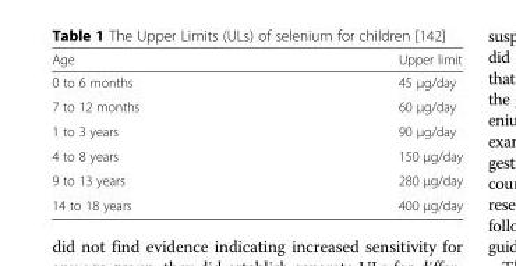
<table><thead><tr><td>Age</td><td>Upper limit</td></tr></thead><tbody><tr><td>0 to 6 months</td><td>45 μg/day</td></tr><tr><td>7 to 12 months</td><td>60 μg/day</td></tr><tr><td>1 to 3 years</td><td>90 μg/day</td></tr><tr><td>4 to 8 years</td><td>150 μg/day</td></tr><tr><td>9 to 13 years</td><td>280 μg/day</td></tr><tr><td>14 to 18 years</td><td>400 μg/day</td></tr></tbody></table>